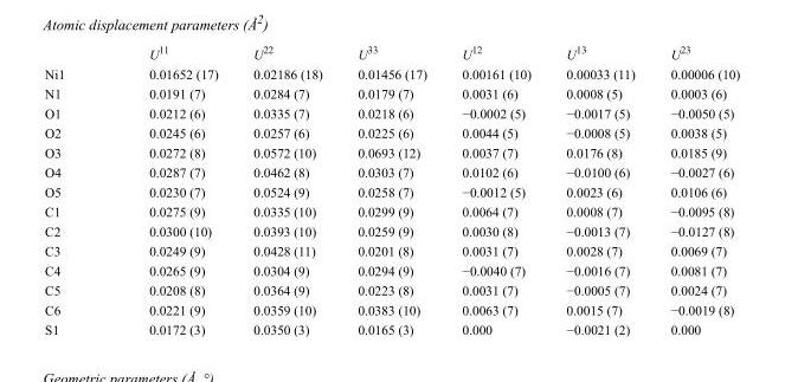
<table><thead><tr><td></td><td>U<sup>11</sup></td><td>U<sup>22</sup></td><td>U<sup>33</sup></td><td>U<sup>12</sup></td><td>U<sup>13</sup></td><td>U<sup>23</sup></td></tr></thead><tbody><tr><td>Ni1</td><td>0.01652 (17)</td><td>0.02186 (18)</td><td>0.01456 (17)</td><td>0.00161 (10)</td><td>0.00033 (11)</td><td>0.00006 (10)</td></tr><tr><td>N1</td><td>0.0191 (7)</td><td>0.0284 (7)</td><td>0.0179 (7)</td><td>0.0031 (6)</td><td>0.0008 (5)</td><td>0.0003 (6)</td></tr><tr><td>O1</td><td>0.0212 (6)</td><td>0.0335 (7)</td><td>0.0218 (6)</td><td>−0.0002 (5)</td><td>−0.0017 (5)</td><td>−0.0050 (5)</td></tr><tr><td>O2</td><td>0.0245 (6)</td><td>0.0257 (6)</td><td>0.0225 (6)</td><td>0.0044 (5)</td><td>−0.0008 (5)</td><td>0.0038 (5)</td></tr><tr><td>O3</td><td>0.0272 (8)</td><td>0.0572 (10)</td><td>0.0693 (12)</td><td>0.0037 (7)</td><td>0.0176 (8)</td><td>0.0185 (9)</td></tr><tr><td>O4</td><td>0.0287 (7)</td><td>0.0462 (8)</td><td>0.0303 (7)</td><td>0.0102 (6)</td><td>−0.0100 (6)</td><td>−0.0027 (6)</td></tr><tr><td>O5</td><td>0.0230 (7)</td><td>0.0524 (9)</td><td>0.0258 (7)</td><td>−0.0012 (5)</td><td>0.0023 (6)</td><td>0.0106 (6)</td></tr><tr><td>C1</td><td>0.0275 (9)</td><td>0.0335 (10)</td><td>0.0299 (9)</td><td>0.0064 (7)</td><td>0.0008 (7)</td><td>−0.0095 (8)</td></tr><tr><td>C2</td><td>0.0300 (10)</td><td>0.0393 (10)</td><td>0.0259 (9)</td><td>0.0030 (8)</td><td>−0.0013 (7)</td><td>−0.0127 (8)</td></tr><tr><td>C3</td><td>0.0249 (9)</td><td>0.0428 (11)</td><td>0.0201 (8)</td><td>0.0031 (7)</td><td>0.0028 (7)</td><td>0.0069 (7)</td></tr><tr><td>C4</td><td>0.0265 (9)</td><td>0.0304 (9)</td><td>0.0294 (9)</td><td>−0.0040 (7)</td><td>−0.0016 (7)</td><td>0.0081 (7)</td></tr><tr><td>C5</td><td>0.0208 (8)</td><td>0.0364 (9)</td><td>0.0223 (8)</td><td>0.0031 (7)</td><td>−0.0005 (7)</td><td>0.0024 (7)</td></tr><tr><td>C6</td><td>0.0221 (9)</td><td>0.0359 (10)</td><td>0.0383 (10)</td><td>0.0063 (7)</td><td>0.0015 (7)</td><td>−0.0019 (8)</td></tr><tr><td>S1</td><td>0.0172 (3)</td><td>0.0350 (3)</td><td>0.0165 (3)</td><td>0.000</td><td>−0.0021 (2)</td><td>0.000</td></tr></tbody></table>